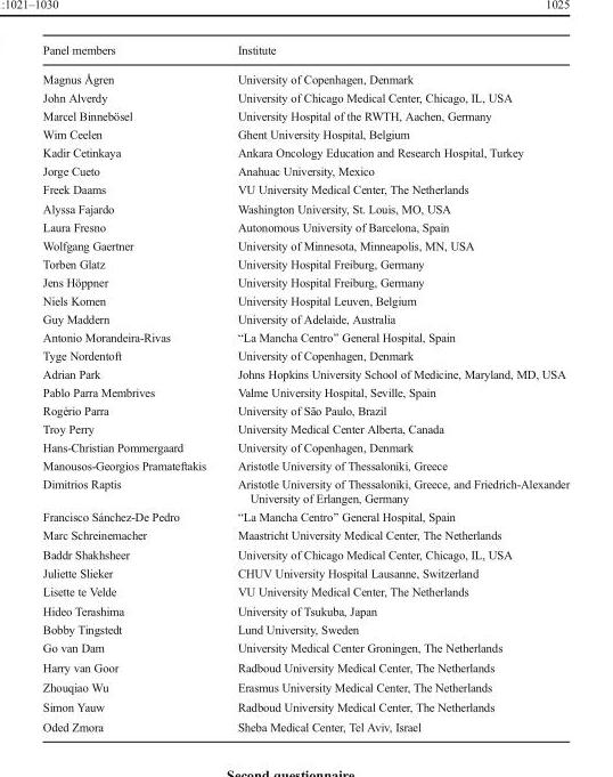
<table><thead><tr><td>Panel members</td><td>Institute</td></tr></thead><tbody><tr><td>Magnus Ågren</td><td>University of Copenhagen, Denmark</td></tr><tr><td>John Alverdy</td><td>University of Chicago Medical Center, Chicago, IL, USA</td></tr><tr><td>Marcel Binnebösel</td><td>University Hospital of the RWTH, Aachen, Germany</td></tr><tr><td>Wim Ceelen</td><td>Ghent University Hospital, Belgium</td></tr><tr><td>Kadir Cetinkaya</td><td>Ankara Oncology Education and Research Hospital, Turkey</td></tr><tr><td>Jorge Cueto</td><td>Anahuac University, Mexico</td></tr><tr><td>Freek Daams</td><td>VU University Medical Center, The Netherlands</td></tr><tr><td>Alyssa Fajardo</td><td>Washington University, St. Louis, MO, USA</td></tr><tr><td>Laura Fresno</td><td>Autonomous University of Barcelona, Spain</td></tr><tr><td>Wolfgang Gaertner</td><td>University of Minnesota, Minneapolis, MN, USA</td></tr><tr><td>Torben Glatz</td><td>University Hospital Freiburg, Germany</td></tr><tr><td>Jens Höppner</td><td>University Hospital Freiburg, Germany</td></tr><tr><td>Niels Komen</td><td>University Hospital Leuven, Belgium</td></tr><tr><td>Guy Maddern</td><td>University of Adelaide, Australia</td></tr><tr><td>Antonio Morandeira-Rivas</td><td>“La Mancha Centro” General Hospital, Spain</td></tr><tr><td>Tyge Nordentoft</td><td>University of Copenhagen, Denmark</td></tr><tr><td>Adrian Park</td><td>Johns Hopkins University School of Medicine, Maryland, MD, USA</td></tr><tr><td>Pablo Parra Membrives</td><td>Valme University Hospital, Seville, Spain</td></tr><tr><td>Rogério Parra</td><td>University of São Paulo, Brazil</td></tr><tr><td>Troy Perry</td><td>University Medical Center Alberta, Canada</td></tr><tr><td>Hans-Christian Pommergaard</td><td>University of Copenhagen, Denmark</td></tr><tr><td>Manousos-Georgios Pramateftakis</td><td>Aristotle University of Thessaloniki, Greece</td></tr><tr><td>Dimitrios Raptis</td><td>Aristotle University of Thessaloniki, Greece, and Friedrich-Alexander University of Erlangen, Germany</td></tr><tr><td>Francisco Sánchez-De Pedro</td><td>“La Mancha Centro” General Hospital, Spain</td></tr><tr><td>Marc Schreinemacher</td><td>Maastricht University Medical Center, The Netherlands</td></tr><tr><td>Baddr Shakhsheer</td><td>University of Chicago Medical Center, Chicago, IL, USA</td></tr><tr><td>Juliette Slieker</td><td>CHUV University Hospital Lausanne, Switzerland</td></tr><tr><td>Lisette te Velde</td><td>VU University Medical Center, The Netherlands</td></tr><tr><td>Hideo Terashima</td><td>University of Tsukuba, Japan</td></tr><tr><td>Bobby Tingstedt</td><td>Lund University, Sweden</td></tr><tr><td>Go van Dam</td><td>University Medical Center Groningen, The Netherlands</td></tr><tr><td>Harry van Goor</td><td>Radboud University Medical Center, The Netherlands</td></tr><tr><td>Zhouqiao Wu</td><td>Erasmus University Medical Center, The Netherlands</td></tr><tr><td>Simon Yauw</td><td>Radboud University Medical Center, The Netherlands</td></tr><tr><td>Oded Zmora</td><td>Sheba Medical Center, Tel Aviv, Israel</td></tr></tbody></table>